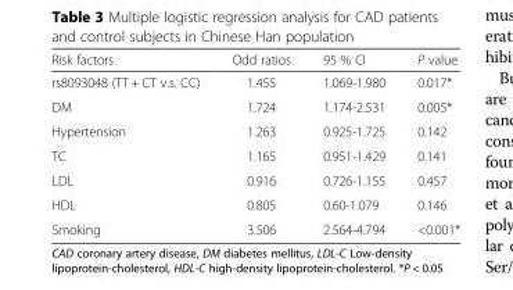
<table><thead><tr><td>Risk factors</td><td>Odd ratios</td><td>95 % CI</td><td>P value</td></tr></thead><tbody><tr><td>rs8093048 (TT + CT v.s. CC)</td><td>1.455</td><td>1.069-1.980</td><td>0.017*</td></tr><tr><td>DM</td><td>1.724</td><td>1.174-2.531</td><td>0.005*</td></tr><tr><td>Hypertension</td><td>1.263</td><td>0.925-1.725</td><td>0.142</td></tr><tr><td>TC</td><td>1.165</td><td>0.951-1.429</td><td>0.141</td></tr><tr><td>LDL</td><td>0.916</td><td>0.726-1.155</td><td>0.457</td></tr><tr><td>HDL</td><td>0.805</td><td>0.60-1.079</td><td>0.146</td></tr><tr><td>Smoking</td><td>3.506</td><td>2.564-4.794</td><td>&lt;0.001*</td></tr></tbody></table>